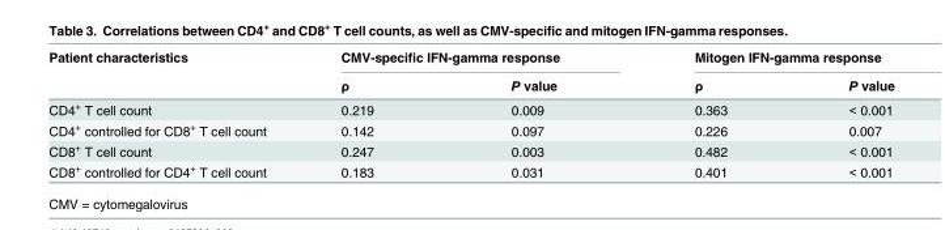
<table><thead><tr><td rowspan="2">Patient characteristics</td><td colspan="2">CMV-specific IFN-gamma response</td><td colspan="2">Mitogen IFN-gamma response</td></tr><tr><td>ρ</td><td>P value</td><td>ρ</td><td>P value</td></tr></thead><tbody><tr><td>CD4<sup>+</sup> T cell count</td><td>0.219</td><td>0.009</td><td>0.363</td><td>&lt; 0.001</td></tr><tr><td>CD4<sup>+</sup> controlled for CD8<sup>+</sup> T cell count</td><td>0.142</td><td>0.097</td><td>0.226</td><td>0.007</td></tr><tr><td>CD8<sup>+</sup> T cell count</td><td>0.247</td><td>0.003</td><td>0.482</td><td>&lt; 0.001</td></tr><tr><td>CD8<sup>+</sup> controlled for CD4<sup>+</sup> T cell count</td><td>0.183</td><td>0.031</td><td>0.401</td><td>&lt; 0.001</td></tr></tbody></table>